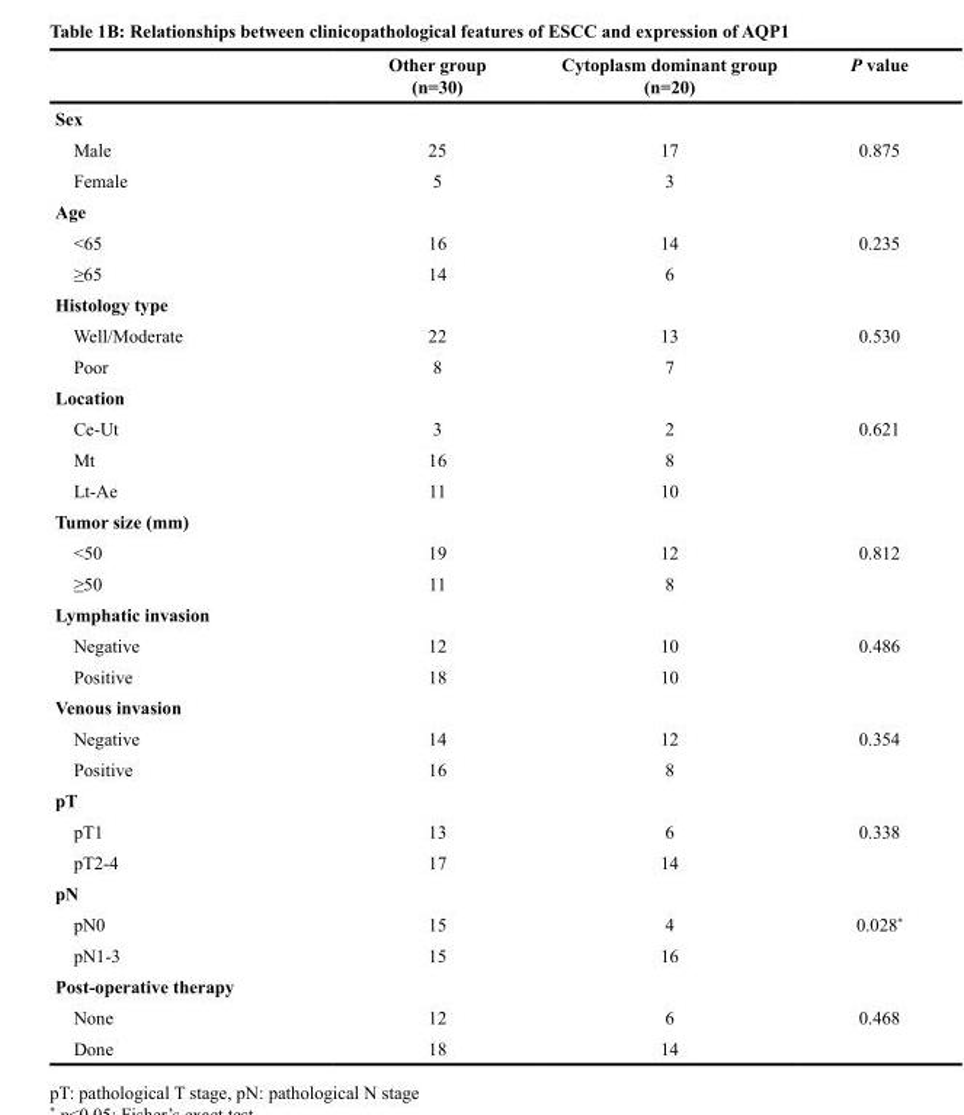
<table><thead><tr><td></td><td>Other group (n=30)</td><td>Cytoplasm dominant group (n=20)</td><td>P value</td></tr></thead><tbody><tr><td colspan="4">Sex</td></tr><tr><td>Male</td><td>25</td><td>17</td><td rowspan="2">0.875</td></tr><tr><td>Female</td><td>5</td><td>3</td></tr><tr><td colspan="4">Age</td></tr><tr><td>&lt;65</td><td>16</td><td>14</td><td rowspan="2">0.235</td></tr><tr><td>≥65</td><td>14</td><td>6</td></tr><tr><td colspan="4">Histology type</td></tr><tr><td>Well/Moderate</td><td>22</td><td>13</td><td rowspan="2">0.530</td></tr><tr><td>Poor</td><td>8</td><td>7</td></tr><tr><td colspan="4">Location</td></tr><tr><td>Ce-Ut</td><td>3</td><td>2</td><td rowspan="3">0.621</td></tr><tr><td>Mt</td><td>16</td><td>8</td></tr><tr><td>Lt-Ae</td><td>11</td><td>10</td></tr><tr><td colspan="4">Tumor size (mm)</td></tr><tr><td>&lt;50</td><td>19</td><td>12</td><td rowspan="2">0.812</td></tr><tr><td>≥50</td><td>11</td><td>8</td></tr><tr><td colspan="4">Lymphatic invasion</td></tr><tr><td>Negative</td><td>12</td><td>10</td><td rowspan="2">0.486</td></tr><tr><td>Positive</td><td>18</td><td>10</td></tr><tr><td colspan="4">Venous invasion</td></tr><tr><td>Negative</td><td>14</td><td>12</td><td rowspan="2">0.354</td></tr><tr><td>Positive</td><td>16</td><td>8</td></tr><tr><td colspan="4">pT</td></tr><tr><td>pT1</td><td>13</td><td>6</td><td rowspan="2">0.338</td></tr><tr><td>pT2-4</td><td>17</td><td>14</td></tr><tr><td colspan="4">pN</td></tr><tr><td>pN0</td><td>15</td><td>4</td><td rowspan="2">0.028*</td></tr><tr><td>pN1-3</td><td>15</td><td>16</td></tr><tr><td colspan="4">Post-operative therapy</td></tr><tr><td>None</td><td>12</td><td>6</td><td rowspan="2">0.468</td></tr><tr><td>Done</td><td>18</td><td>14</td></tr></tbody></table>